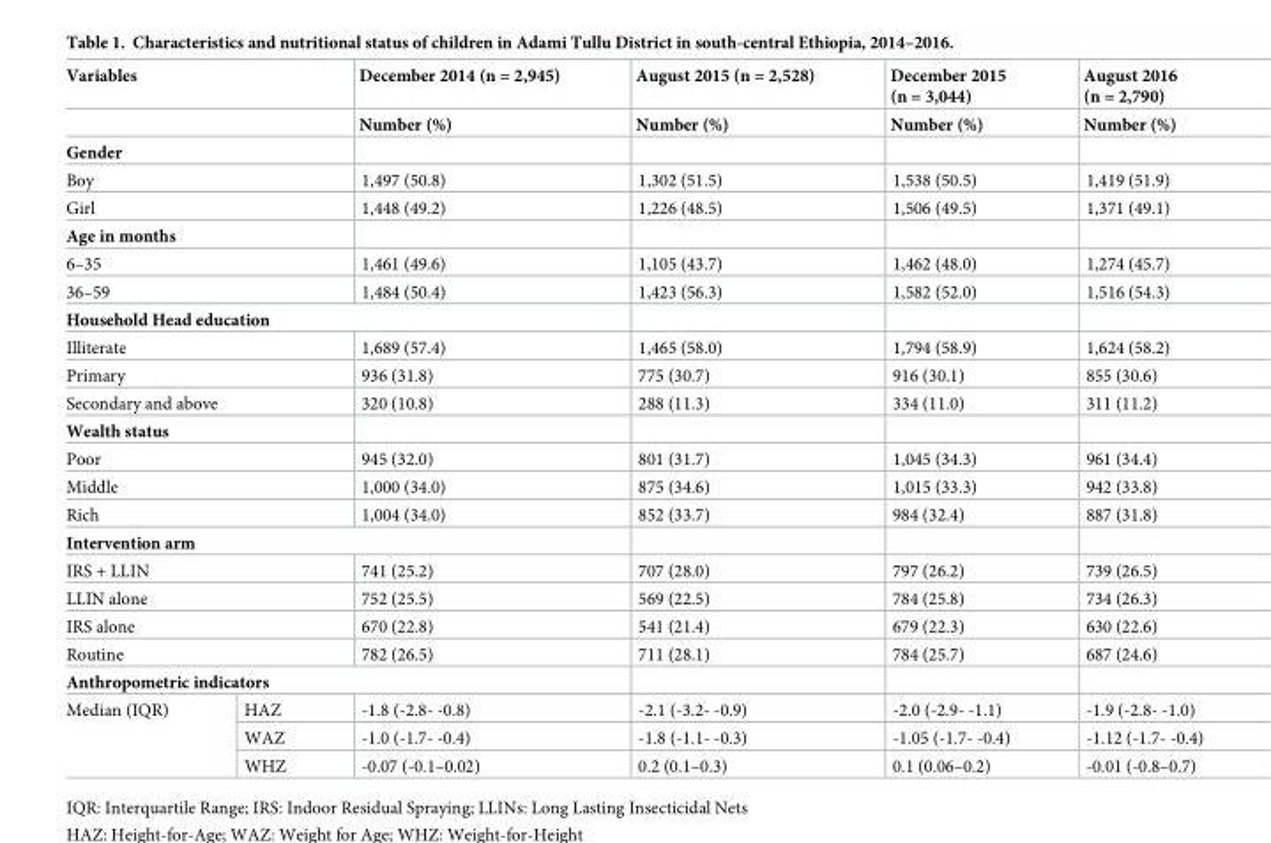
<table><thead><tr><td colspan="2">Variables</td><td rowspan="2">December 2014 (n = 2,945) Number (%)</td><td rowspan="2">August 2015 (n = 2,528) Number (%)</td><td rowspan="2">December 2015 (n = 3,044) Number (%)</td><td rowspan="2">August 2016 (n = 2,790) Number (%)</td></tr><tr><td></td><td></td></tr></thead><tbody><tr><td colspan="6">Gender</td></tr><tr><td colspan="2">Boy</td><td>1,497 (50.8)</td><td>1,302 (51.5)</td><td>1,538 (50.5)</td><td>1,419 (51.9)</td></tr><tr><td colspan="2">Girl</td><td>1,448 (49.2)</td><td>1,226 (48.5)</td><td>1,506 (49.5)</td><td>1,371 (49.1)</td></tr><tr><td colspan="6">Age in months</td></tr><tr><td colspan="2">6–35</td><td>1,461 (49.6)</td><td>1,105 (43.7)</td><td>1,462 (48.0)</td><td>1,274 (45.7)</td></tr><tr><td colspan="2">36–59</td><td>1,484 (50.4)</td><td>1,423 (56.3)</td><td>1,582 (52.0)</td><td>1,516 (54.3)</td></tr><tr><td colspan="6">Household Head education</td></tr><tr><td colspan="2">Illiterate</td><td>1,689 (57.4)</td><td>1,465 (58.0)</td><td>1,794 (58.9)</td><td>1,624 (58.2)</td></tr><tr><td colspan="2">Primary</td><td>936 (31.8)</td><td>775 (30.7)</td><td>916 (30.1)</td><td>855 (30.6)</td></tr><tr><td colspan="2">Secondary and above</td><td>320 (10.8)</td><td>288 (11.3)</td><td>334 (11.0)</td><td>311 (11.2)</td></tr><tr><td colspan="6">Wealth status</td></tr><tr><td colspan="2">Poor</td><td>945 (32.0)</td><td>801 (31.7)</td><td>1,045 (34.3)</td><td>961 (34.4)</td></tr><tr><td colspan="2">Middle</td><td>1,000 (34.0)</td><td>875 (34.6)</td><td>1,015 (33.3)</td><td>942 (33.8)</td></tr><tr><td colspan="2">Rich</td><td>1,004 (34.0)</td><td>852 (33.7)</td><td>984 (32.4)</td><td>887 (31.8)</td></tr><tr><td colspan="6">Intervention arm</td></tr><tr><td colspan="2">IRS + LLIN</td><td>741 (25.2)</td><td>707 (28.0)</td><td>797 (26.2)</td><td>739 (26.5)</td></tr><tr><td colspan="2">LLIN alone</td><td>752 (25.5)</td><td>569 (22.5)</td><td>784 (25.8)</td><td>734 (26.3)</td></tr><tr><td colspan="2">IRS alone</td><td>670 (22.8)</td><td>541 (21.4)</td><td>679 (22.3)</td><td>630 (22.6)</td></tr><tr><td colspan="2">Routine</td><td>782 (26.5)</td><td>711 (28.1)</td><td>784 (25.7)</td><td>687 (24.6)</td></tr><tr><td colspan="6">Anthropometric indicators</td></tr><tr><td rowspan="3">Median (IQR)</td><td>HAZ</td><td>-1.8 (-2.8- -0.8)</td><td>-2.1 (-3.2- -0.9)</td><td>-2.0 (-2.9- -1.1)</td><td>-1.9 (-2.8- -1.0)</td></tr><tr><td>WAZ</td><td>-1.0 (-1.7- -0.4)</td><td>-1.8 (-1.1- -0.3)</td><td>-1.05 (-1.7- -0.4)</td><td>-1.12 (-1.7- -0.4)</td></tr><tr><td>WHZ</td><td>-0.07 (-0.1–0.02)</td><td>0.2 (0.1–0.3)</td><td>0.1 (0.06–0.2)</td><td>-0.01 (-0.8–0.7)</td></tr></tbody></table>